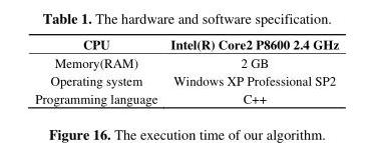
<table><thead><tr><td>CPU</td><td>Intel(R) Core2 P8600 2.4 GHz</td></tr></thead><tbody><tr><td>Memory(RAM)</td><td>2 GB</td></tr><tr><td>Operating system</td><td>Windows XP Professional SP2</td></tr><tr><td>Programming language</td><td>C++</td></tr></tbody></table>